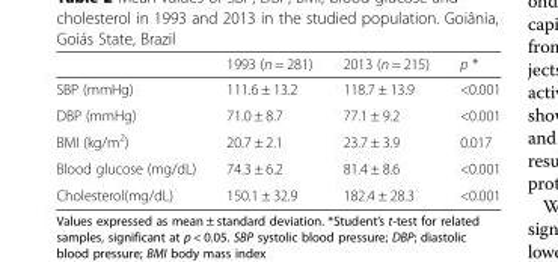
<table><thead><tr><td></td><td>1993 (n = 281)</td><td>2013 (n = 215)</td><td>p *</td></tr></thead><tbody><tr><td>SBP (mmHg)</td><td>111.6 ± 13.2</td><td>118.7 ± 13.9</td><td>&lt;0.001</td></tr><tr><td>DBP (mmHg)</td><td>71.0 ± 8.7</td><td>77.1 ± 9.2</td><td>&lt;0.001</td></tr><tr><td>BMI (kg/m<sup>2</sup>)</td><td>20.7 ± 2.1</td><td>23.7 ± 3.9</td><td>0.017</td></tr><tr><td>Blood glucose (mg/dL)</td><td>74.3 ± 6.2</td><td>81.4 ± 8.6</td><td>&lt;0.001</td></tr><tr><td>Cholesterol(mg/dL)</td><td>150.1 ± 32.9</td><td>182.4 ± 28.3</td><td>&lt;0.001</td></tr></tbody></table>